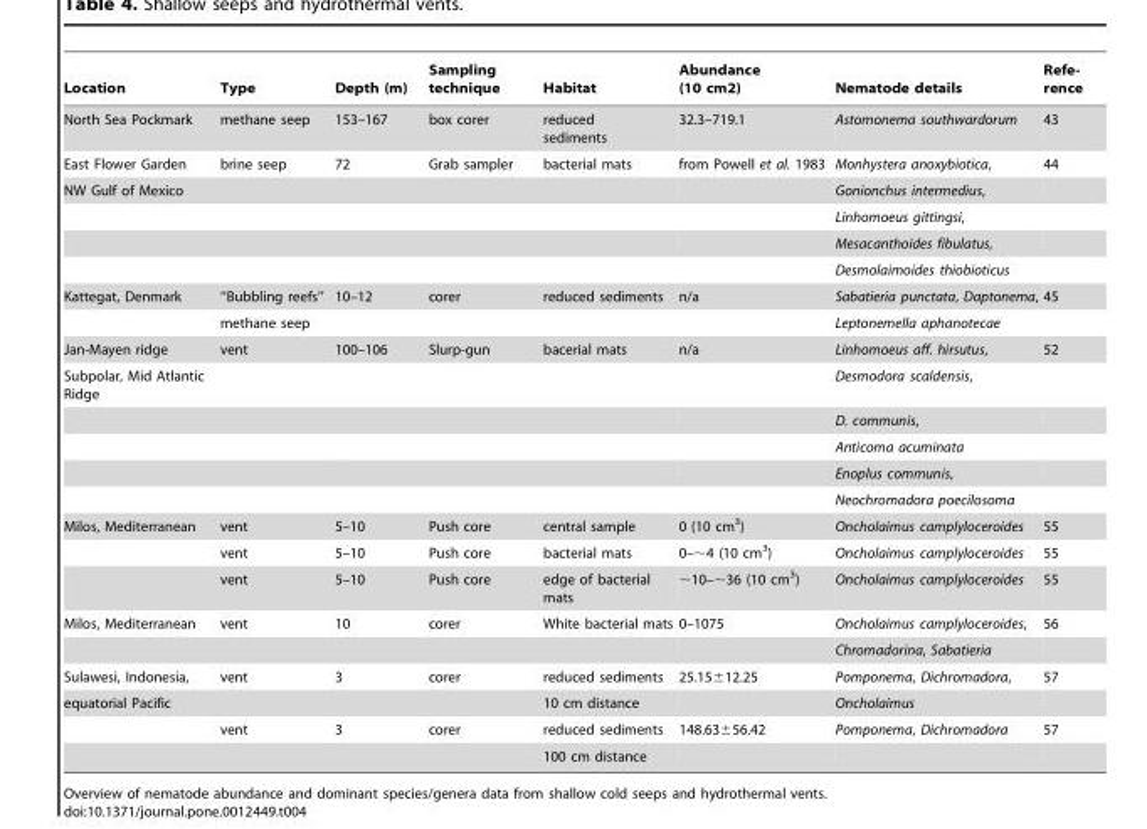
<table><thead><tr><td>Location</td><td>Type</td><td>Depth (m)</td><td>Sampling technique</td><td>Habitat</td><td>Abundance (10 cm2)</td><td>Nematode details</td><td>Refe- rence</td></tr></thead><tbody><tr><td>North Sea Pockmark</td><td>methane seep</td><td>153–167</td><td>box corer</td><td>reduced sediments</td><td>32.3–719.1</td><td>Astomonema southwardorum</td><td>43</td></tr><tr><td>East Flower Garden</td><td>brine seep</td><td>72</td><td>Grab sampler</td><td>bacterial mats</td><td>from Powell et al. 1983</td><td>Monhystera anoxybiotica,</td><td>44</td></tr><tr><td rowspan="4">NW Gulf of Mexico</td><td></td><td></td><td></td><td></td><td></td><td>Gonionchus intermedius,</td><td></td></tr><tr><td></td><td></td><td></td><td></td><td></td><td>Linhomoeus gittingsi,</td><td></td></tr><tr><td></td><td></td><td></td><td></td><td></td><td>Mesacanthoides fibulatus,</td><td></td></tr><tr><td></td><td></td><td></td><td></td><td></td><td>Desmolaimoides thiobioticus</td><td></td></tr><tr><td rowspan="2">Kattegat, Denmark</td><td>‘‘Bubbling reefs’’</td><td>10–12</td><td>corer</td><td>reduced sediments</td><td>n/a</td><td>Sabatieria punctata, Daptonema,</td><td>45</td></tr><tr><td>methane seep</td><td></td><td></td><td></td><td></td><td>Leptonemella aphanotecae</td><td></td></tr><tr><td>Jan-Mayen ridge</td><td>vent</td><td>100–106</td><td>Slurp-gun</td><td>bacerial mats</td><td>n/a</td><td>Linhomoeus aff. hirsutus,</td><td>52</td></tr><tr><td rowspan="5">Subpolar, Mid Atlantic Ridge</td><td></td><td></td><td></td><td></td><td></td><td>Desmodora scaldensis,</td><td></td></tr><tr><td></td><td></td><td></td><td></td><td></td><td>D. communis,</td><td></td></tr><tr><td></td><td></td><td></td><td></td><td></td><td>Anticoma acuminata</td><td></td></tr><tr><td></td><td></td><td></td><td></td><td></td><td>Enoplus communis,</td><td></td></tr><tr><td></td><td></td><td></td><td></td><td></td><td>Neochromadora poecilosoma</td><td></td></tr><tr><td rowspan="3">Milos, Mediterranean</td><td>vent</td><td>5–10</td><td>Push core</td><td>central sample</td><td>0 (10 cm<sup>3</sup>)</td><td>Oncholaimus camplyloceroides</td><td>55</td></tr><tr><td>vent</td><td>5–10</td><td>Push core</td><td>bacterial mats</td><td>0–∼4 (10 cm<sup>3</sup>)</td><td>Oncholaimus camplyloceroides</td><td>55</td></tr><tr><td>vent</td><td>5–10</td><td>Push core</td><td>edge of bacterial mats</td><td>∼10–∼36 (10 cm<sup>3</sup>)</td><td>Oncholaimus camplyloceroides</td><td>55</td></tr><tr><td rowspan="2">Milos, Mediterranean</td><td>vent</td><td>10</td><td>corer</td><td>White bacterial mats</td><td>0–1075</td><td>Oncholaimus camplyloceroides,</td><td>56</td></tr><tr><td></td><td></td><td></td><td></td><td></td><td>Chromadorina, Sabatieria</td><td></td></tr><tr><td>Sulawesi, Indonesia,</td><td>vent</td><td>3</td><td>corer</td><td>reduced sediments</td><td>25.15±12.25</td><td>Pomponema, Dichromadora,</td><td>57</td></tr><tr><td rowspan="3">equatorial Pacific</td><td></td><td></td><td></td><td>10 cm distance</td><td></td><td>Oncholaimus</td><td></td></tr><tr><td>vent</td><td>3</td><td>corer</td><td>reduced sediments</td><td>148.63±56.42</td><td>Pomponema, Dichromadora</td><td>57</td></tr><tr><td></td><td></td><td></td><td>100 cm distance</td><td></td><td></td><td></td></tr></tbody></table>